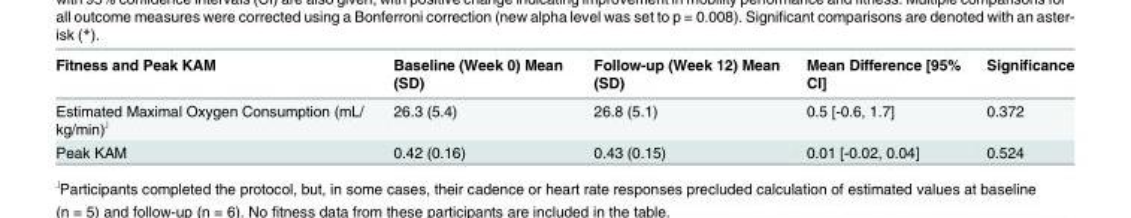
<table><thead><tr><td>Fitness and Peak KAM</td><td>Baseline (Week 0) Mean (SD)</td><td>Follow-up (Week 12) Mean (SD)</td><td>Mean Difference [95% CI]</td><td>Significance</td></tr></thead><tbody><tr><td>Estimated Maximal Oxygen Consumption (mL/ kg/min)<sup>˩</sup></td><td>26.3 (5.4)</td><td>26.8 (5.1)</td><td>0.5 [-0.6, 1.7]</td><td>0.372</td></tr><tr><td>Peak KAM</td><td>0.42 (0.16)</td><td>0.43 (0.15)</td><td>0.01 [-0.02, 0.04]</td><td>0.524</td></tr></tbody></table>